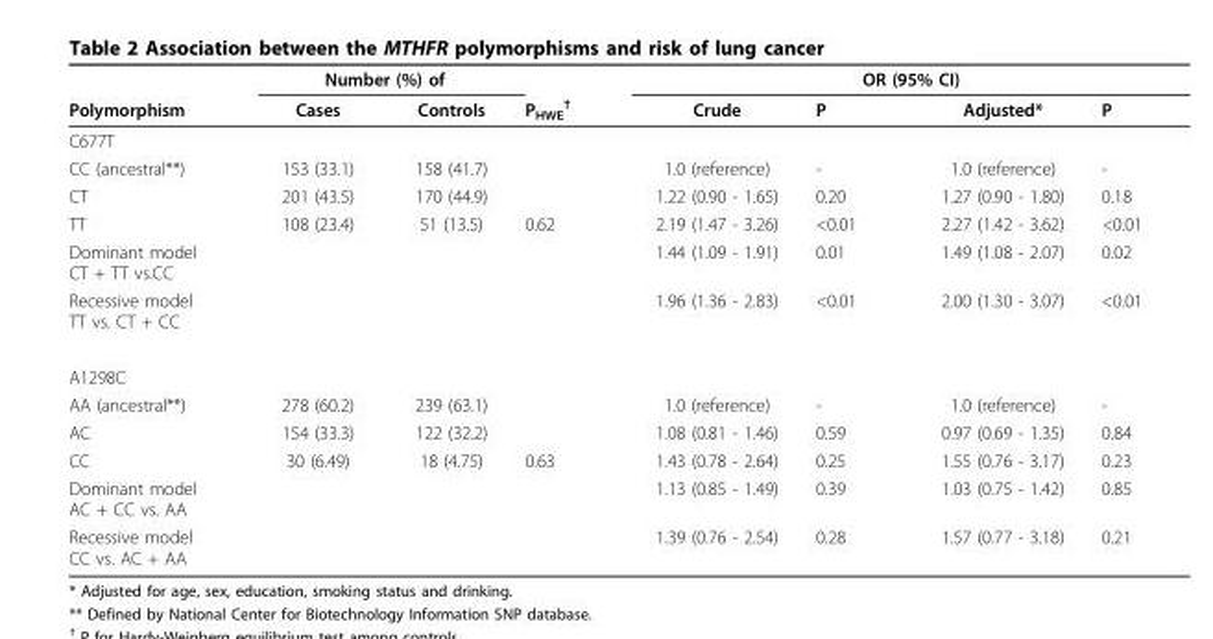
<table><thead><tr><td rowspan="2">Polymorphism</td><td colspan="2">Number (%) of</td><td rowspan="2">P<sub>HWE</sub> <sup>†</sup></td><td colspan="4">OR (95% CI)</td></tr><tr><td>Cases</td><td>Controls</td><td>Crude</td><td>P</td><td>Adjusted*</td><td>P</td></tr></thead><tbody><tr><td colspan="8">C677T</td></tr><tr><td>CC (ancestral**)</td><td>153 (33.1)</td><td>158 (41.7)</td><td></td><td>1.0 (reference)</td><td>-</td><td>1.0 (reference)</td><td>-</td></tr><tr><td>CT</td><td>201 (43.5)</td><td>170 (44.9)</td><td></td><td>1.22 (0.90 - 1.65)</td><td>0.20</td><td>1.27 (0.90 - 1.80)</td><td>0.18</td></tr><tr><td>TT</td><td>108 (23.4)</td><td>51 (13.5)</td><td>0.62</td><td>2.19 (1.47 - 3.26)</td><td>&lt;0.01</td><td>2.27 (1.42 - 3.62)</td><td>&lt;0.01</td></tr><tr><td>Dominant model CT + TT vs.CC</td><td></td><td></td><td></td><td>1.44 (1.09 - 1.91)</td><td>0.01</td><td>1.49 (1.08 - 2.07)</td><td>0.02</td></tr><tr><td>Recessive model TT vs. CT + CC</td><td></td><td></td><td></td><td>1.96 (1.36 - 2.83)</td><td>&lt;0.01</td><td>2.00 (1.30 - 3.07)</td><td>&lt;0.01</td></tr><tr><td colspan="8">A1298C</td></tr><tr><td>AA (ancestral**)</td><td>278 (60.2)</td><td>239 (63.1)</td><td></td><td>1.0 (reference)</td><td>-</td><td>1.0 (reference)</td><td>-</td></tr><tr><td>AC</td><td>154 (33.3)</td><td>122 (32.2)</td><td></td><td>1.08 (0.81 - 1.46)</td><td>0.59</td><td>0.97 (0.69 - 1.35)</td><td>0.84</td></tr><tr><td>CC</td><td>30 (6.49)</td><td>18 (4.75)</td><td>0.63</td><td>1.43 (0.78 - 2.64)</td><td>0.25</td><td>1.55 (0.76 - 3.17)</td><td>0.23</td></tr><tr><td>Dominant model AC + CC vs. AA</td><td></td><td></td><td></td><td>1.13 (0.85 - 1.49)</td><td>0.39</td><td>1.03 (0.75 - 1.42)</td><td>0.85</td></tr><tr><td>Recessive model CC vs. AC + AA</td><td></td><td></td><td></td><td>1.39 (0.76 - 2.54)</td><td>0.28</td><td>1.57 (0.77 - 3.18)</td><td>0.21</td></tr></tbody></table>